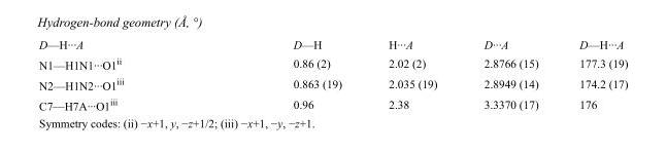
<table><tbody><tr><td>D—H···A</td><td>D—H</td><td>H···A</td><td>D···A</td><td>D—H···A</td></tr><tr><td>N1—H1N1···O1<sup>ii</sup></td><td>0.86 (2)</td><td>2.02 (2)</td><td>2.8766 (15)</td><td>177.3 (19)</td></tr><tr><td>N2—H1N2···O1<sup>iii</sup></td><td>0.863 (19)</td><td>2.035 (19)</td><td>2.8949 (14)</td><td>174.2 (17)</td></tr><tr><td>C7—H7A···O1<sup>iii</sup></td><td>0.96</td><td>2.38</td><td>3.3370 (17)</td><td>176</td></tr></tbody></table>